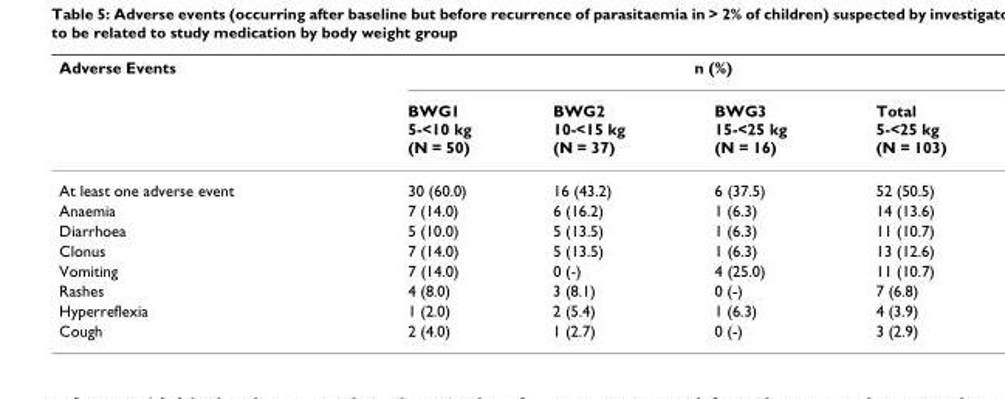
<table><thead><tr><td rowspan="2">Adverse Events</td><td colspan="4">n (%)</td></tr><tr><td>BWG1 5-&lt;10 kg (N = 50)</td><td>BWG2 10-&lt;15 kg (N = 37)</td><td>BWG3 15-&lt;25 kg (N = 16)</td><td>Total 5-&lt;25 kg (N = 103)</td></tr></thead><tbody><tr><td>At least one adverse event</td><td>30 (60.0)</td><td>16 (43.2)</td><td>6 (37.5)</td><td>52 (50.5)</td></tr><tr><td>Anaemia</td><td>7 (14.0)</td><td>6 (16.2)</td><td>1 (6.3)</td><td>14 (13.6)</td></tr><tr><td>Diarrhoea</td><td>5 (10.0)</td><td>5 (13.5)</td><td>1 (6.3)</td><td>11 (10.7)</td></tr><tr><td>Clonus</td><td>7 (14.0)</td><td>5 (13.5)</td><td>1 (6.3)</td><td>13 (12.6)</td></tr><tr><td>Vomiting</td><td>7 (14.0)</td><td>0 (-)</td><td>4 (25.0)</td><td>11 (10.7)</td></tr><tr><td>Rashes</td><td>4 (8.0)</td><td>3 (8.1)</td><td>0 (-)</td><td>7 (6.8)</td></tr><tr><td>Hyperreflexia</td><td>1 (2.0)</td><td>2 (5.4)</td><td>1 (6.3)</td><td>4 (3.9)</td></tr><tr><td>Cough</td><td>2 (4.0)</td><td>1 (2.7)</td><td>0 (-)</td><td>3 (2.9)</td></tr></tbody></table>